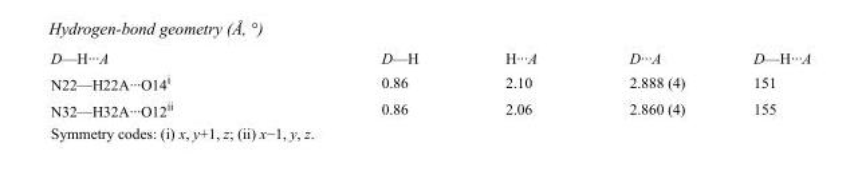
<table><tbody><tr><td>D—H···A</td><td>D—H</td><td>H···A</td><td>D···A</td><td>D—H···A</td></tr><tr><td>N22—H22A···O14<sup>i</sup></td><td>0.86</td><td>2.10</td><td>2.888 (4)</td><td>151</td></tr><tr><td>N32—H32A···O12<sup>ii</sup></td><td>0.86</td><td>2.06</td><td>2.860 (4)</td><td>155</td></tr></tbody></table>